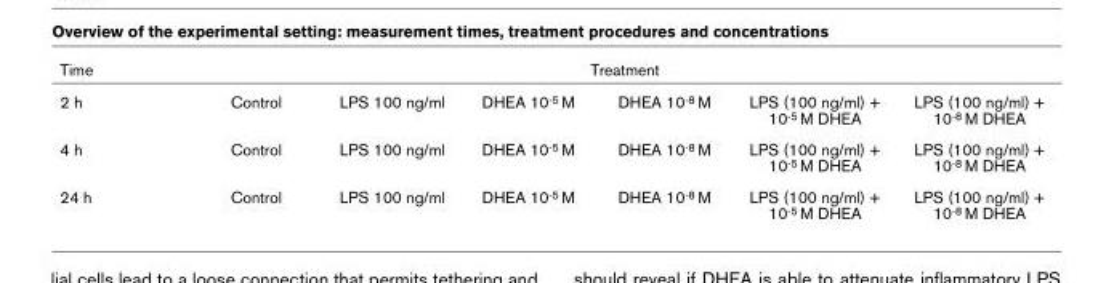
<table><thead><tr><td rowspan="2">Time 2 h</td><td colspan="6">Treatment</td></tr><tr><td>Control</td><td>LPS 100 ng/ml</td><td>DHEA 10-5 M</td><td>DHEA 10-8 M</td><td>LPS (100 ng/ml) + 10-5 M DHEA</td><td>LPS (100 ng/ml) + 10-8 M DHEA</td></tr></thead><tbody><tr><td>4 h</td><td>Control</td><td>LPS 100 ng/ml</td><td>DHEA 10-5 M</td><td>DHEA 10-8 M</td><td>LPS (100 ng/ml) + 10-5 M DHEA</td><td>LPS (100 ng/ml) + 10-8 M DHEA</td></tr><tr><td>24 h</td><td>Control</td><td>LPS 100 ng/ml</td><td>DHEA 10-5 M</td><td>DHEA 10-8 M</td><td>LPS (100 ng/ml) + 10-5 M DHEA</td><td>LPS (100 ng/ml) + 10-8 M DHEA</td></tr></tbody></table>